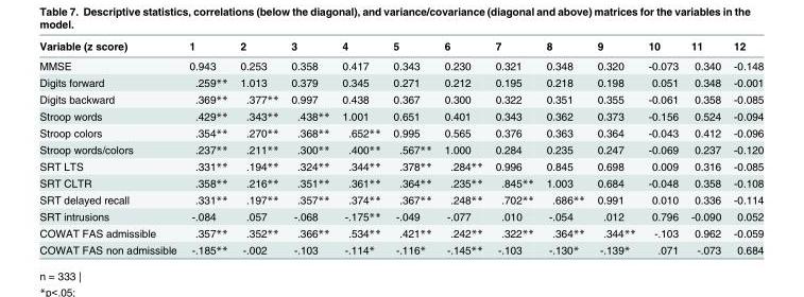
<table><thead><tr><td>Variable (z score)</td><td>1</td><td>2</td><td>3</td><td>4</td><td>5</td><td>6</td><td>7</td><td>8</td><td>9</td><td>10</td><td>11</td><td>12</td></tr></thead><tbody><tr><td>MMSE</td><td>0.943</td><td>0.253</td><td>0.358</td><td>0.417</td><td>0.343</td><td>0.230</td><td>0.321</td><td>0.348</td><td>0.320</td><td>-0.073</td><td>0.340</td><td>-0.148</td></tr><tr><td>Digits forward</td><td>.259**</td><td>1.013</td><td>0.379</td><td>0.345</td><td>0.271</td><td>0.212</td><td>0.195</td><td>0.218</td><td>0.198</td><td>0.051</td><td>0.348</td><td>-0.001</td></tr><tr><td>Digits backward</td><td>.369**</td><td>.377**</td><td>0.997</td><td>0.438</td><td>0.367</td><td>0.300</td><td>0.322</td><td>0.351</td><td>0.355</td><td>-0.061</td><td>0.358</td><td>-0.085</td></tr><tr><td>Stroop words</td><td>.429**</td><td>.343**</td><td>.438**</td><td>1.001</td><td>0.651</td><td>0.401</td><td>0.343</td><td>0.362</td><td>0.373</td><td>-0.156</td><td>0.524</td><td>-0.094</td></tr><tr><td>Stroop colors</td><td>.354**</td><td>.270**</td><td>.368**</td><td>.652**</td><td>0.995</td><td>0.565</td><td>0.376</td><td>0.363</td><td>0.364</td><td>-0.043</td><td>0.412</td><td>-0.096</td></tr><tr><td>Stroop words/colors</td><td>.237**</td><td>.211**</td><td>.300**</td><td>.400**</td><td>.567**</td><td>1.000</td><td>0.284</td><td>0.235</td><td>0.247</td><td>-0.069</td><td>0.237</td><td>-0.120</td></tr><tr><td>SRT LTS</td><td>.331**</td><td>.194**</td><td>.324**</td><td>.344**</td><td>.378**</td><td>.284**</td><td>0.996</td><td>0.845</td><td>0.698</td><td>0.009</td><td>0.316</td><td>-0.085</td></tr><tr><td>SRT CLTR</td><td>.358**</td><td>.216**</td><td>.351**</td><td>.361**</td><td>.364**</td><td>.235**</td><td>.845**</td><td>1.003</td><td>0.684</td><td>-0.048</td><td>0.358</td><td>-0.108</td></tr><tr><td>SRT delayed recall</td><td>.331**</td><td>.197**</td><td>.357**</td><td>.374**</td><td>.367**</td><td>.248**</td><td>.702**</td><td>.686**</td><td>0.991</td><td>0.010</td><td>0.336</td><td>-0.114</td></tr><tr><td>SRT intrusions</td><td>-.084</td><td>.057</td><td>-.068</td><td>-.175**</td><td>-.049</td><td>-.077</td><td>.010</td><td>-.054</td><td>.012</td><td>0.796</td><td>-0.090</td><td>0.052</td></tr><tr><td>COWAT FAS admissible</td><td>.357**</td><td>.352**</td><td>.366**</td><td>.534**</td><td>.421**</td><td>.242**</td><td>.322**</td><td>.364**</td><td>.344**</td><td>-.103</td><td>0.962</td><td>-0.059</td></tr><tr><td>COWAT FAS non admissible</td><td>-.185**</td><td>-.002</td><td>-.103</td><td>-.114*</td><td>-.116*</td><td>-.145**</td><td>-.103</td><td>-.130*</td><td>-.139*</td><td>.071</td><td>-.073</td><td>0.684</td></tr></tbody></table>